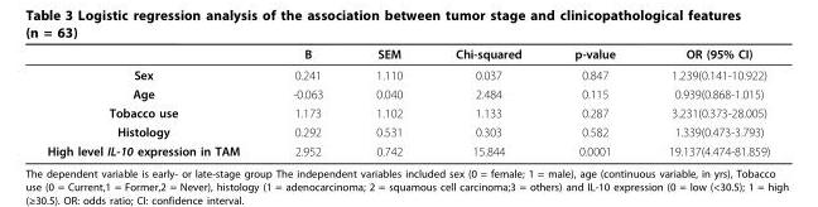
<table><thead><tr><td></td><td>B</td><td>SEM</td><td>Chi-squared</td><td>p-value</td><td>OR (95% CI)</td></tr></thead><tbody><tr><td>Sex</td><td>0.241</td><td>1.110</td><td>0.037</td><td>0.847</td><td>1.239(0.141-10.922)</td></tr><tr><td>Age</td><td>-0.063</td><td>0.040</td><td>2.484</td><td>0.115</td><td>0.939(0.868-1.015)</td></tr><tr><td>Tobacco use</td><td>1.173</td><td>1.102</td><td>1.133</td><td>0.287</td><td>3.231(0.373-28.005)</td></tr><tr><td>Histology</td><td>0.292</td><td>0.531</td><td>0.303</td><td>0.582</td><td>1.339(0.473-3.793)</td></tr><tr><td>High level IL-10 expression in TAM</td><td>2.952</td><td>0.742</td><td>15.844</td><td>0.0001</td><td>19.137(4.474-81.859)</td></tr></tbody></table>